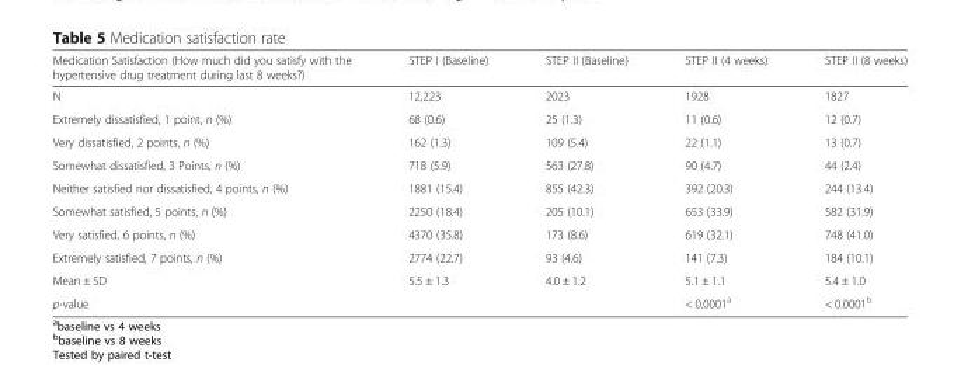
<table><thead><tr><td>Medication Satisfaction (How much did you satisfy with the hypertensive drug treatment during last 8 weeks?)</td><td>STEP I (Baseline)</td><td>STEP II (Baseline)</td><td>STEP II (4 weeks)</td><td>STEP II (8 weeks)</td></tr></thead><tbody><tr><td>N</td><td>12,223</td><td>2023</td><td>1928</td><td>1827</td></tr><tr><td>Extremely dissatisfied, 1 point, n (%)</td><td>68 (0.6)</td><td>25 (1.3)</td><td>11 (0.6)</td><td>12 (0.7)</td></tr><tr><td>Very dissatisfied, 2 points, n (%)</td><td>162 (1.3)</td><td>109 (5.4)</td><td>22 (1.1)</td><td>13 (0.7)</td></tr><tr><td>Somewhat dissatisfied, 3 Points, n (%)</td><td>718 (5.9)</td><td>563 (27.8)</td><td>90 (4.7)</td><td>44 (2.4)</td></tr><tr><td>Neither satisfied nor dissatisfied, 4 points, n (%)</td><td>1881 (15.4)</td><td>855 (42.3)</td><td>392 (20.3)</td><td>244 (13.4)</td></tr><tr><td>Somewhat satisfied, 5 points, n (%)</td><td>2250 (18.4)</td><td>205 (10.1)</td><td>653 (33.9)</td><td>582 (31.9)</td></tr><tr><td>Very satisfied, 6 points, n (%)</td><td>4370 (35.8)</td><td>173 (8.6)</td><td>619 (32.1)</td><td>748 (41.0)</td></tr><tr><td>Extremely satisfied, 7 points, n (%)</td><td>2774 (22.7)</td><td>93 (4.6)</td><td>141 (7.3)</td><td>184 (10.1)</td></tr><tr><td>Mean ± SD</td><td>5.5 ± 1.3</td><td>4.0 ± 1.2</td><td>5.1 ± 1.1</td><td>5.4 ± 1.0</td></tr><tr><td>p-value</td><td></td><td></td><td>&lt; 0.0001<sup>a</sup></td><td>&lt; 0.0001<sup>b</sup></td></tr></tbody></table>